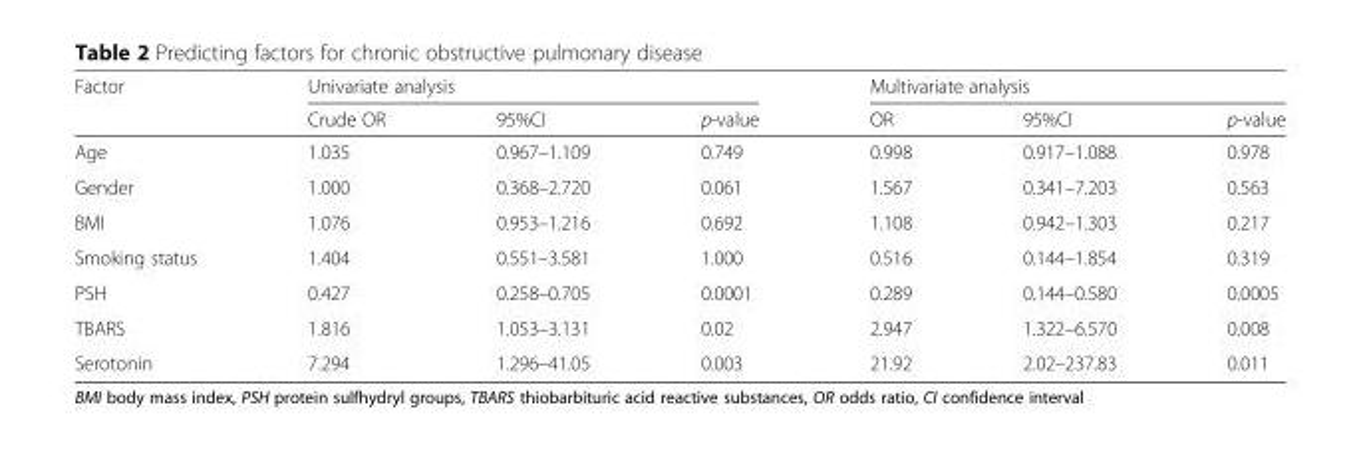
<table><thead><tr><td rowspan="2">Factor</td><td colspan="3">Univariate analysis</td><td colspan="3">Multivariate analysis</td></tr><tr><td>Crude OR</td><td>95%CI</td><td>p-value</td><td>OR</td><td>95%CI</td><td>p-value</td></tr></thead><tbody><tr><td>Age</td><td>1.035</td><td>0.967–1.109</td><td>0.749</td><td>0.998</td><td>0.917–1.088</td><td>0.978</td></tr><tr><td>Gender</td><td>1.000</td><td>0.368–2.720</td><td>0.061</td><td>1.567</td><td>0.341–7.203</td><td>0.563</td></tr><tr><td>BMI</td><td>1.076</td><td>0.953–1.216</td><td>0.692</td><td>1.108</td><td>0.942–1.303</td><td>0.217</td></tr><tr><td>Smoking status</td><td>1.404</td><td>0.551–3.581</td><td>1.000</td><td>0.516</td><td>0.144–1.854</td><td>0.319</td></tr><tr><td>PSH</td><td>0.427</td><td>0.258–0.705</td><td>0.0001</td><td>0.289</td><td>0.144–0.580</td><td>0.0005</td></tr><tr><td>TBARS</td><td>1.816</td><td>1.053–3.131</td><td>0.02</td><td>2.947</td><td>1.322–6.570</td><td>0.008</td></tr><tr><td>Serotonin</td><td>7.294</td><td>1.296–41.05</td><td>0.003</td><td>21.92</td><td>2.02–237.83</td><td>0.011</td></tr></tbody></table>